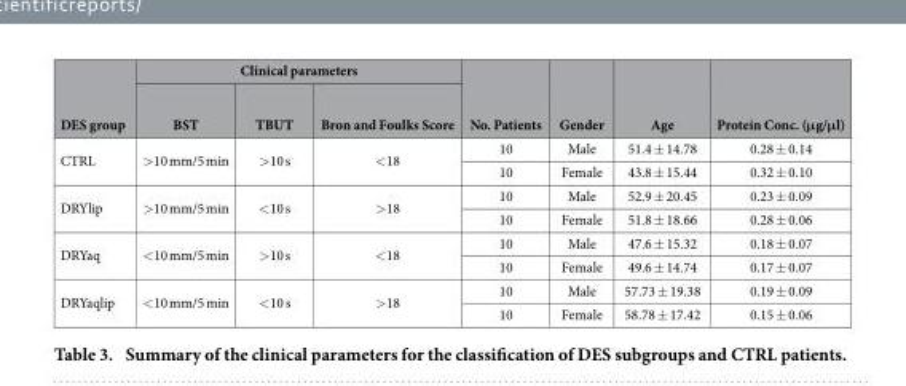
<table><thead><tr><td rowspan="2">DES group</td><td colspan="3">Clinical parameters</td><td rowspan="2">No. Patients</td><td rowspan="2">Gender</td><td rowspan="2">Age</td><td rowspan="2">Protein Conc. (μg/μl)</td></tr><tr><td>BST</td><td>TBUT</td><td>Bron and Foulks Score</td></tr></thead><tbody><tr><td rowspan="2">CTRL</td><td rowspan="2">&gt; 10 mm/5 min</td><td rowspan="2">&gt; 10 s</td><td rowspan="2">&lt; 18</td><td>10</td><td>Male</td><td>51.4 ± 14.78</td><td>0.28 ± 0.14</td></tr><tr><td>10</td><td>Female</td><td>43.8 ± 15.44</td><td>0.32 ± 0.10</td></tr><tr><td rowspan="2">DRYlip</td><td rowspan="2">&gt; 10 mm/5 min</td><td rowspan="2">&lt; 10 s</td><td rowspan="2">&gt; 18</td><td>10</td><td>Male</td><td>52.9 ± 20.45</td><td>0.23 ± 0.09</td></tr><tr><td>10</td><td>Female</td><td>51.8 ± 18.66</td><td>0.28 ± 0.06</td></tr><tr><td rowspan="2">DRYaq</td><td rowspan="2">&lt; 10 mm/5 min</td><td rowspan="2">&gt; 10 s</td><td rowspan="2">&lt; 18</td><td>10</td><td>Male</td><td>47.6 ± 15.32</td><td>0.18 ± 0.07</td></tr><tr><td>10</td><td>Female</td><td>49.6 ± 14.74</td><td>0.17 ± 0.07</td></tr><tr><td rowspan="2">DRYaqlip</td><td rowspan="2">&lt; 10 mm/5 min</td><td rowspan="2">&lt; 10 s</td><td rowspan="2">&gt; 18</td><td>10</td><td>Male</td><td>57.73 ± 19.38</td><td>0.19 ± 0.09</td></tr><tr><td>10</td><td>Female</td><td>58.78 ± 17.42</td><td>0.15 ± 0.06</td></tr></tbody></table>